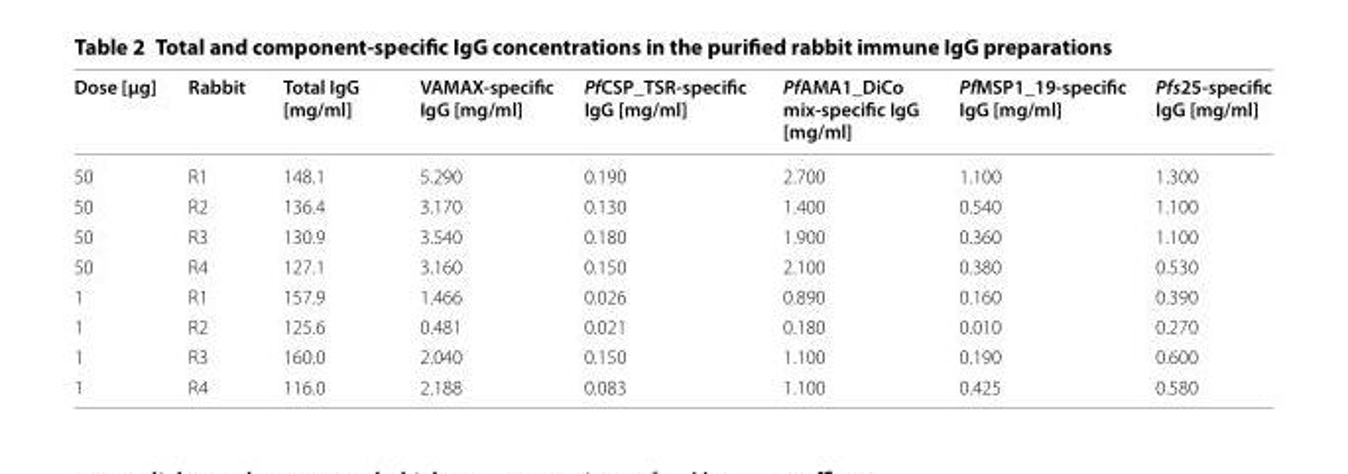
<table><thead><tr><td>Dose [µg]</td><td>Rabbit</td><td>Total IgG [mg/ml]</td><td>VAMAX‑specific IgG [mg/ml]</td><td>PfCSP_TSR‑specific IgG [mg/ml]</td><td>PfAMA1_DiCo mix‑specific IgG [mg/ml]</td><td>PfMSP1_19‑specific IgG [mg/ml]</td><td>Pfs25‑specific IgG [mg/ml]</td></tr></thead><tbody><tr><td>50</td><td>R1</td><td>148.1</td><td>5.290</td><td>0.190</td><td>2.700</td><td>1.100</td><td>1.300</td></tr><tr><td>50</td><td>R2</td><td>136.4</td><td>3.170</td><td>0.130</td><td>1.400</td><td>0.540</td><td>1.100</td></tr><tr><td>50</td><td>R3</td><td>130.9</td><td>3.540</td><td>0.180</td><td>1.900</td><td>0.360</td><td>1.100</td></tr><tr><td>50</td><td>R4</td><td>127.1</td><td>3.160</td><td>0.150</td><td>2.100</td><td>0.380</td><td>0.530</td></tr><tr><td>1</td><td>R1</td><td>157.9</td><td>1.466</td><td>0.026</td><td>0.890</td><td>0.160</td><td>0.390</td></tr><tr><td>1</td><td>R2</td><td>125.6</td><td>0.481</td><td>0.021</td><td>0.180</td><td>0.010</td><td>0.270</td></tr><tr><td>1</td><td>R3</td><td>160.0</td><td>2.040</td><td>0.150</td><td>1.100</td><td>0.190</td><td>0.600</td></tr><tr><td>1</td><td>R4</td><td>116.0</td><td>2.188</td><td>0.083</td><td>1.100</td><td>0.425</td><td>0.580</td></tr></tbody></table>